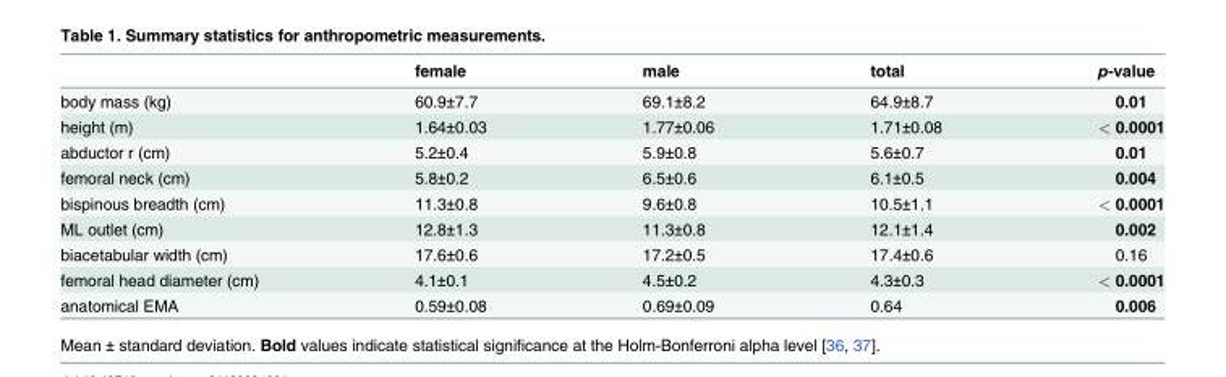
<table><thead><tr><td></td><td>female</td><td>male</td><td>total</td><td>p-value</td></tr></thead><tbody><tr><td>body mass (kg)</td><td>60.9±7.7</td><td>69.1±8.2</td><td>64.9±8.7</td><td>0.01</td></tr><tr><td>height (m)</td><td>1.64±0.03</td><td>1.77±0.06</td><td>1.71±0.08</td><td>&lt; 0.0001</td></tr><tr><td>abductor r (cm)</td><td>5.2±0.4</td><td>5.9±0.8</td><td>5.6±0.7</td><td>0.01</td></tr><tr><td>femoral neck (cm)</td><td>5.8±0.2</td><td>6.5±0.6</td><td>6.1±0.5</td><td>0.004</td></tr><tr><td>bispinous breadth (cm)</td><td>11.3±0.8</td><td>9.6±0.8</td><td>10.5±1.1</td><td>&lt; 0.0001</td></tr><tr><td>ML outlet (cm)</td><td>12.8±1.3</td><td>11.3±0.8</td><td>12.1±1.4</td><td>0.002</td></tr><tr><td>biacetabular width (cm)</td><td>17.6±0.6</td><td>17.2±0.5</td><td>17.4±0.6</td><td>0.16</td></tr><tr><td>femoral head diameter (cm)</td><td>4.1±0.1</td><td>4.5±0.2</td><td>4.3±0.3</td><td>&lt; 0.0001</td></tr><tr><td>anatomical EMA</td><td>0.59±0.08</td><td>0.69±0.09</td><td>0.64</td><td>0.006</td></tr></tbody></table>